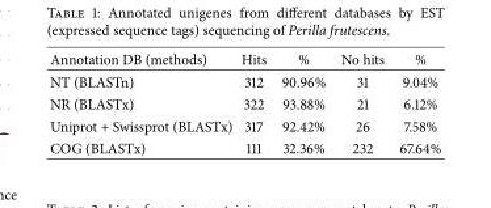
<table><thead><tr><td>Annotation DB (methods)</td><td>Hits</td><td>%</td><td>No hits</td><td>%</td></tr></thead><tbody><tr><td>NT (BLASTn)</td><td>312</td><td>90.96%</td><td>31</td><td>9.04%</td></tr><tr><td>NR (BLASTx)</td><td>322</td><td>93.88%</td><td>21</td><td>6.12%</td></tr><tr><td>Uniprot + Swissprot (BLASTx)</td><td>317</td><td>92.42%</td><td>26</td><td>7.58%</td></tr><tr><td>COG (BLASTx)</td><td>111</td><td>32.36%</td><td>232</td><td>67.64%</td></tr></tbody></table>